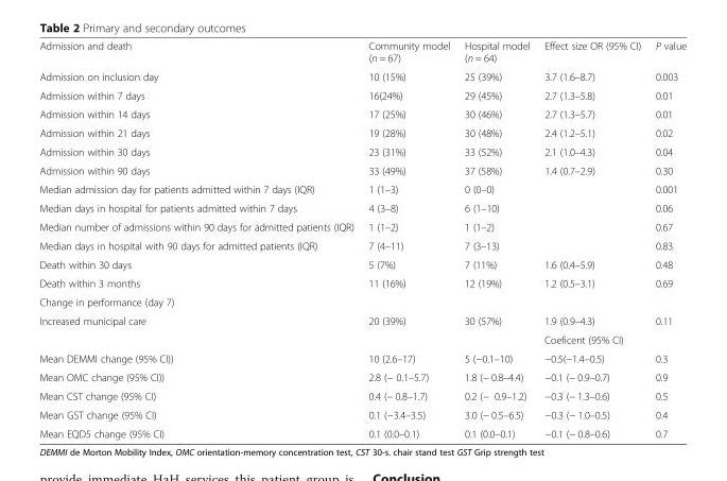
<table><tbody><tr><td>Admission and death</td><td>Community model (n = 67)</td><td>Hospital model (n = 64)</td><td>Effect size OR (95% CI)</td><td>P value</td></tr><tr><td>Admission on inclusion day</td><td>10 (15%)</td><td>25 (39%)</td><td>3.7 (1.6–8.7)</td><td>0.003</td></tr><tr><td>Admission within 7 days</td><td>16(24%)</td><td>29 (45%)</td><td>2.7 (1.3–5.8)</td><td>0.01</td></tr><tr><td>Admission within 14 days</td><td>17 (25%)</td><td>30 (46%)</td><td>2.7 (1.3–5.7)</td><td>0.01</td></tr><tr><td>Admission within 21 days</td><td>19 (28%)</td><td>30 (48%)</td><td>2.4 (1.2–5.1)</td><td>0.02</td></tr><tr><td>Admission within 30 days</td><td>23 (31%)</td><td>33 (52%)</td><td>2.1 (1.0–4.3)</td><td>0.04</td></tr><tr><td>Admission within 90 days</td><td>33 (49%)</td><td>37 (58%)</td><td>1.4 (0.7–2.9)</td><td>0.30</td></tr><tr><td>Median admission day for patients admitted within 7 days (IQR)</td><td>1 (1–3)</td><td>0 (0–0)</td><td></td><td>0.001</td></tr><tr><td>Median days in hospital for patients admitted within 7 days</td><td>4 (3–8)</td><td>6 (1–10)</td><td></td><td>0.06</td></tr><tr><td>Median number of admissions within 90 days for admitted patients (IQR)</td><td>1 (1–2)</td><td>1 (1–2)</td><td></td><td>0.67</td></tr><tr><td>Median days in hospital with 90 days for admitted patients (IQR)</td><td>7 (4–11)</td><td>7 (3–13)</td><td></td><td>0.83</td></tr><tr><td>Death within 30 days</td><td>5 (7%)</td><td>7 (11%)</td><td>1.6 (0.4–5.9)</td><td>0.48</td></tr><tr><td>Death within 3 months</td><td>11 (16%)</td><td>12 (19%)</td><td>1.2 (0.5–3.1)</td><td>0.69</td></tr><tr><td colspan="5">Change in performance (day 7)</td></tr><tr><td rowspan="2">Increased municipal care</td><td>20 (39%)</td><td>30 (57%)</td><td>1.9 (0.9–4.3)</td><td>0.11</td></tr><tr><td></td><td></td><td>Coeficent (95% CI)</td><td></td></tr><tr><td>Mean DEMMI change (95% CI))</td><td>10 (2.6–17)</td><td>5 (−0.1–10)</td><td>−0.5(−1.4–0.5)</td><td>0.3</td></tr><tr><td>Mean OMC change (95% CI))</td><td>2.8 (− 0.1–5.7)</td><td>1.8 (− 0.8–4.4)</td><td>−0.1 (− 0.9–0.7)</td><td>0.9</td></tr><tr><td>Mean CST change (95% CI)</td><td>0.4 (− 0.8–1.7)</td><td>0.2 (− 0.9–1.2)</td><td>−0.3 (− 1.3–0.6)</td><td>0.5</td></tr><tr><td>Mean GST change (95% CI)</td><td>0.1 (−3.4–3.5)</td><td>3.0 (− 0.5–6.5)</td><td>−0.3 (− 1.0–0.5)</td><td>0.4</td></tr><tr><td>Mean EQD5 change (95% CI)</td><td>0.1 (0.0–0.1)</td><td>0.1 (0.0–0.1)</td><td>−0.1 (− 0.8–0.6)</td><td>0.7</td></tr></tbody></table>